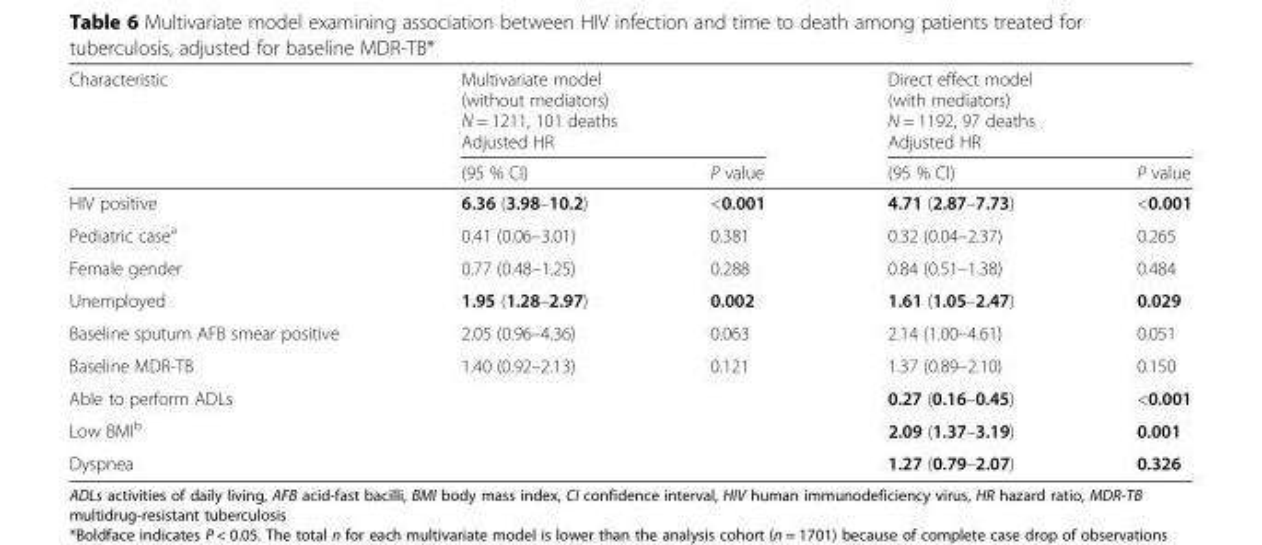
<table><thead><tr><td rowspan="5">Characteristic</td><td rowspan="4" colspan="2">Multivariate model (without mediators) N = 1211, 101 deaths Adjusted HR</td><td rowspan="4" colspan="2">Direct effect model (with mediators) N = 1192, 97 deaths Adjusted HR</td></tr><tr></tr><tr></tr><tr></tr><tr><td>(95 % CI)</td><td>P value</td><td>(95 % CI)</td><td>P value</td></tr></thead><tbody><tr><td>HIV positive</td><td>6.36 (3.98–10.2)</td><td>&lt;0.001</td><td>4.71 (2.87–7.73)</td><td>&lt;0.001</td></tr><tr><td>Pediatric case<sup>a</sup></td><td>0.41 (0.06–3.01)</td><td>0.381</td><td>0.32 (0.04–2.37)</td><td>0.265</td></tr><tr><td>Female gender</td><td>0.77 (0.48–1.25)</td><td>0.288</td><td>0.84 (0.51–1.38)</td><td>0.484</td></tr><tr><td>Unemployed</td><td>1.95 (1.28–2.97)</td><td>0.002</td><td>1.61 (1.05–2.47)</td><td>0.029</td></tr><tr><td>Baseline sputum AFB smear positive</td><td>2.05 (0.96–4.36)</td><td>0.063</td><td>2.14 (1.00–4.61)</td><td>0.051</td></tr><tr><td>Baseline MDR-TB</td><td>1.40 (0.92–2.13)</td><td>0.121</td><td>1.37 (0.89–2.10)</td><td>0.150</td></tr><tr><td>Able to perform ADLs</td><td></td><td></td><td>0.27 (0.16–0.45)</td><td>&lt;0.001</td></tr><tr><td>Low BMI<sup>b</sup></td><td></td><td></td><td>2.09 (1.37–3.19)</td><td>0.001</td></tr><tr><td>Dyspnea</td><td></td><td></td><td>1.27 (0.79–2.07)</td><td>0.326</td></tr></tbody></table>